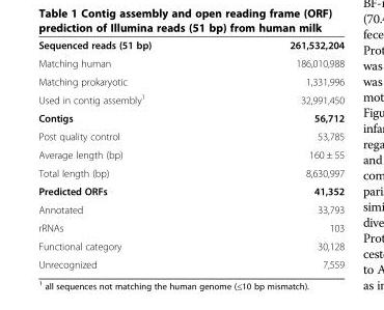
<table><tbody><tr><td>Sequenced reads (51 bp)</td><td>261,532,204</td></tr><tr><td>Matching human</td><td>186,010,988</td></tr><tr><td>Matching prokaryotic</td><td>1,331,996</td></tr><tr><td>Used in contig assembly<sup>1</sup></td><td>32,991,450</td></tr><tr><td>Contigs</td><td>56,712</td></tr><tr><td>Post quality control</td><td>53,785</td></tr><tr><td>Average length (bp)</td><td>160 ± 55</td></tr><tr><td>Total length (bp)</td><td>8,630,997</td></tr><tr><td>Predicted ORFs</td><td>41,352</td></tr><tr><td>Annotated</td><td>33,793</td></tr><tr><td>rRNAs</td><td>103</td></tr><tr><td>Functional category</td><td>30,128</td></tr><tr><td>Unrecognized</td><td>7,559</td></tr></tbody></table>